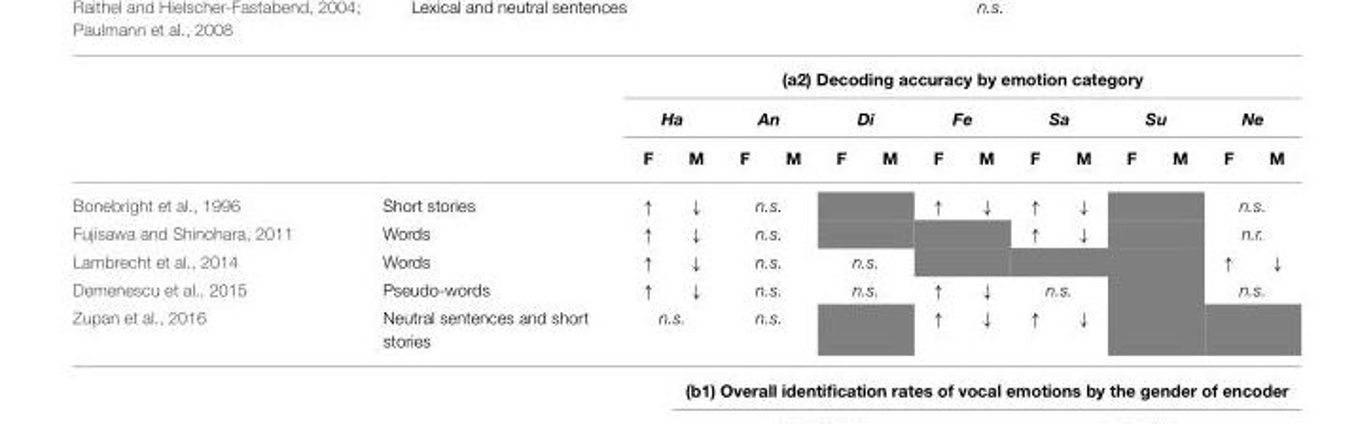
<table><thead><tr><td rowspan="3"></td><td rowspan="3"></td><td colspan="14">(a2) Decoding accuracy by emotion category</td></tr><tr><td colspan="2">Ha</td><td colspan="2">An</td><td colspan="2">Di</td><td colspan="2">Fe</td><td colspan="2">Sa</td><td colspan="2">Su</td><td colspan="2">Ne</td></tr><tr><td>F</td><td>M</td><td>F</td><td>M</td><td>F</td><td>M</td><td>F</td><td>M</td><td>F</td><td>M</td><td>F</td><td>M</td><td>F</td><td>M</td></tr></thead><tbody><tr><td>Bonebright et al., 1996</td><td>Short stories</td><td>↑</td><td>↓</td><td colspan="2">n.s.</td><td colspan="2"></td><td>↑</td><td>↓</td><td>↑</td><td>↓</td><td colspan="2"></td><td colspan="2">n.s.</td></tr><tr><td>Fujisawa and Shinohara, 2011</td><td>Words</td><td>↑</td><td>↓</td><td colspan="2">n.s.</td><td colspan="2"></td><td colspan="2"></td><td>↑</td><td>↓</td><td colspan="2"></td><td colspan="2">n.r.</td></tr><tr><td>Lambrecht et al., 2014</td><td>Words</td><td>↑</td><td>↓</td><td colspan="2">n.s.</td><td colspan="2">n.s.</td><td colspan="2"></td><td colspan="2"></td><td colspan="2"></td><td>↑</td><td>↓</td></tr><tr><td>Demenescu et al., 2015</td><td>Pseudo-words</td><td>↑</td><td>↓</td><td colspan="2">n.s.</td><td colspan="2">n.s.</td><td>↑</td><td>↓</td><td colspan="2">n.s.</td><td colspan="2"></td><td colspan="2">n.s.</td></tr><tr><td>Zupan et al., 2016</td><td>Neutral sentences and short stories</td><td colspan="2">n.s.</td><td colspan="2">n.s.</td><td colspan="2"></td><td>↑</td><td>↓</td><td>↑</td><td>↓</td><td colspan="2"></td><td colspan="2"></td></tr></tbody></table>